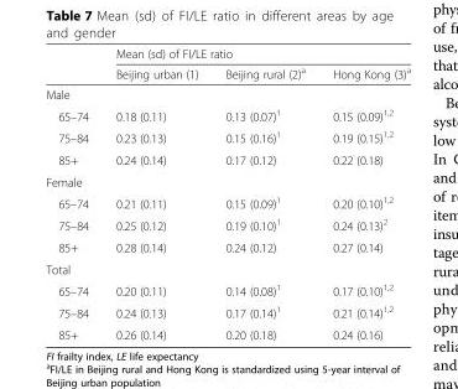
<table><thead><tr><td rowspan="2"></td><td colspan="3">Mean (sd) of FI/LE ratio</td></tr><tr><td>Beijing urban (1)</td><td>Beijing rural (2)<sup>a</sup></td><td>Hong Kong (3)<sup>a</sup></td></tr></thead><tbody><tr><td colspan="4">Male</td></tr><tr><td>65–74</td><td>0.18 (0.11)</td><td>0.13 (0.07)<sup>1</sup></td><td>0.15 (0.09)<sup>1,2</sup></td></tr><tr><td>75–84</td><td>0.23 (0.13)</td><td>0.15 (0.16)<sup>1</sup></td><td>0.19 (0.15)<sup>1,2</sup></td></tr><tr><td>85+</td><td>0.24 (0.14)</td><td>0.17 (0.12)</td><td>0.22 (0.18)</td></tr><tr><td colspan="4">Female</td></tr><tr><td>65–74</td><td>0.21 (0.11)</td><td>0.15 (0.09)<sup>1</sup></td><td>0.20 (0.10)<sup>1,2</sup></td></tr><tr><td>75–84</td><td>0.25 (0.12)</td><td>0.19 (0.10)<sup>1</sup></td><td>0.24 (0.13)<sup>2</sup></td></tr><tr><td>85+</td><td>0.28 (0.14)</td><td>0.24 (0.12)</td><td>0.27 (0.14)</td></tr><tr><td colspan="4">Total</td></tr><tr><td>65–74</td><td>0.20 (0.11)</td><td>0.14 (0.08)<sup>1</sup></td><td>0.17 (0.10)<sup>1,2</sup></td></tr><tr><td>75–84</td><td>0.24 (0.13)</td><td>0.17 (0.14)<sup>1</sup></td><td>0.21 (0.14)<sup>1,2</sup></td></tr><tr><td>85+</td><td>0.26 (0.14)</td><td>0.20 (0.18)</td><td>0.24 (0.16)</td></tr></tbody></table>